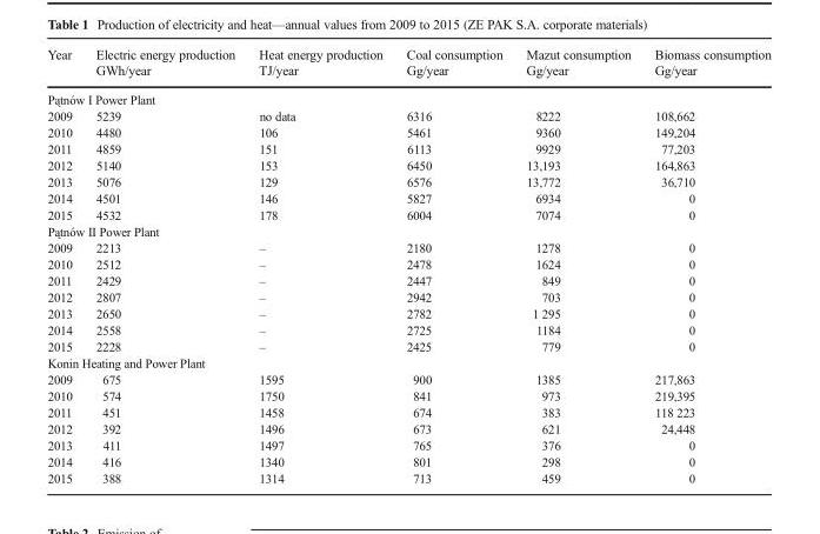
<table><thead><tr><td rowspan="2">Year</td><td rowspan="2">Electric energy production GWh/year</td><td rowspan="2">Heat energy production TJ/year</td><td rowspan="2">Coal consumption Gg/year</td><td rowspan="2">Mazut consumption Gg/year</td><td rowspan="2">Biomass consumption Gg/year</td></tr><tr></tr></thead><tbody><tr><td colspan="6">Pątnów I Power Plant</td></tr><tr><td>2009</td><td>5239</td><td>no data</td><td>6316</td><td>8222</td><td>108,662</td></tr><tr><td>2010</td><td>4480</td><td>106</td><td>5461</td><td>9360</td><td>149,204</td></tr><tr><td>2011</td><td>4859</td><td>151</td><td>6113</td><td>9929</td><td>77,203</td></tr><tr><td>2012</td><td>5140</td><td>153</td><td>6450</td><td>13,193</td><td>164,863</td></tr><tr><td>2013</td><td>5076</td><td>129</td><td>6576</td><td>13,772</td><td>36,710</td></tr><tr><td>2014</td><td>4501</td><td>146</td><td>5827</td><td>6934</td><td>0</td></tr><tr><td>2015</td><td>4532</td><td>178</td><td>6004</td><td>7074</td><td>0</td></tr><tr><td colspan="6">Pątnów II Power Plant</td></tr><tr><td>2009</td><td>2213</td><td>–</td><td>2180</td><td>1278</td><td>0</td></tr><tr><td>2010</td><td>2512</td><td>–</td><td>2478</td><td>1624</td><td>0</td></tr><tr><td>2011</td><td>2429</td><td>–</td><td>2447</td><td>849</td><td>0</td></tr><tr><td>2012</td><td>2807</td><td>–</td><td>2942</td><td>703</td><td>0</td></tr><tr><td>2013</td><td>2650</td><td>–</td><td>2782</td><td>1 295</td><td>0</td></tr><tr><td>2014</td><td>2558</td><td>–</td><td>2725</td><td>1184</td><td>0</td></tr><tr><td>2015</td><td>2228</td><td>–</td><td>2425</td><td>779</td><td>0</td></tr><tr><td colspan="6">Konin Heating and Power Plant</td></tr><tr><td>2009</td><td>675</td><td>1595</td><td>900</td><td>1385</td><td>217,863</td></tr><tr><td>2010</td><td>574</td><td>1750</td><td>841</td><td>973</td><td>219,395</td></tr><tr><td>2011</td><td>451</td><td>1458</td><td>674</td><td>383</td><td>118 223</td></tr><tr><td>2012</td><td>392</td><td>1496</td><td>673</td><td>621</td><td>24,448</td></tr><tr><td>2013</td><td>411</td><td>1497</td><td>765</td><td>376</td><td>0</td></tr><tr><td>2014</td><td>416</td><td>1340</td><td>801</td><td>298</td><td>0</td></tr><tr><td>2015</td><td>388</td><td>1314</td><td>713</td><td>459</td><td>0</td></tr></tbody></table>